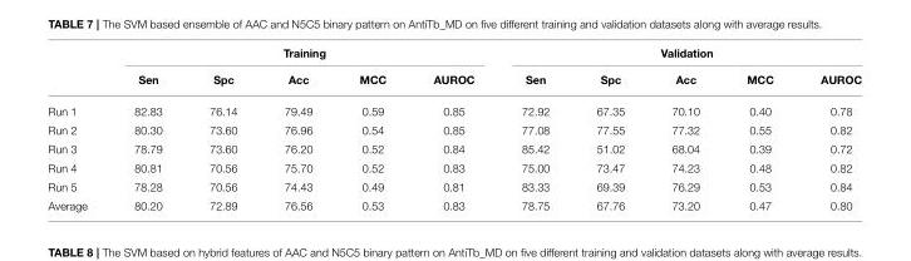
<table><thead><tr><td rowspan="2"></td><td colspan="5">Training</td><td colspan="5">Validation</td></tr><tr><td>Sen</td><td>Spc</td><td>Acc</td><td>MCC</td><td>AUROC</td><td>Sen</td><td>Spc</td><td>Acc</td><td>MCC</td><td>AUROC</td></tr></thead><tbody><tr><td>Run 1</td><td>82.83</td><td>76.14</td><td>79.49</td><td>0.59</td><td>0.85</td><td>72.92</td><td>67.35</td><td>70.10</td><td>0.40</td><td>0.78</td></tr><tr><td>Run 2</td><td>80.30</td><td>73.60</td><td>76.96</td><td>0.54</td><td>0.85</td><td>77.08</td><td>77.55</td><td>77.32</td><td>0.55</td><td>0.82</td></tr><tr><td>Run 3</td><td>78.79</td><td>73.60</td><td>76.20</td><td>0.52</td><td>0.84</td><td>85.42</td><td>51.02</td><td>68.04</td><td>0.39</td><td>0.72</td></tr><tr><td>Run 4</td><td>80.81</td><td>70.56</td><td>75.70</td><td>0.52</td><td>0.83</td><td>75.00</td><td>73.47</td><td>74.23</td><td>0.48</td><td>0.82</td></tr><tr><td>Run 5</td><td>78.28</td><td>70.56</td><td>74.43</td><td>0.49</td><td>0.81</td><td>83.33</td><td>69.39</td><td>76.29</td><td>0.53</td><td>0.84</td></tr><tr><td>Average</td><td>80.20</td><td>72.89</td><td>76.56</td><td>0.53</td><td>0.83</td><td>78.75</td><td>67.76</td><td>73.20</td><td>0.47</td><td>0.80</td></tr></tbody></table>